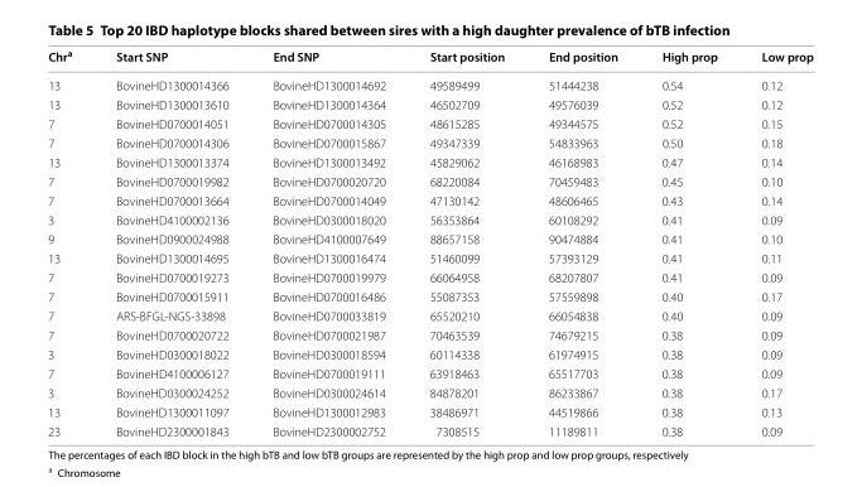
<table><thead><tr><td>Chr<sup>a</sup></td><td>Start SNP</td><td>End SNP</td><td>Start position</td><td>End position</td><td>High prop</td><td>Low prop</td></tr></thead><tbody><tr><td>13</td><td>BovineHD1300014366</td><td>BovineHD1300014692</td><td>49589499</td><td>51444238</td><td>0.54</td><td>0.12</td></tr><tr><td>13</td><td>BovineHD1300013610</td><td>BovineHD1300014364</td><td>46502709</td><td>49576039</td><td>0.52</td><td>0.12</td></tr><tr><td>7</td><td>BovineHD0700014051</td><td>BovineHD0700014305</td><td>48615285</td><td>49344575</td><td>0.52</td><td>0.15</td></tr><tr><td>7</td><td>BovineHD0700014306</td><td>BovineHD0700015867</td><td>49347339</td><td>54833963</td><td>0.50</td><td>0.18</td></tr><tr><td>13</td><td>BovineHD1300013374</td><td>BovineHD1300013492</td><td>45829062</td><td>46168983</td><td>0.47</td><td>0.14</td></tr><tr><td>7</td><td>BovineHD0700019982</td><td>BovineHD0700020720</td><td>68220084</td><td>70459483</td><td>0.45</td><td>0.10</td></tr><tr><td>7</td><td>BovineHD0700013664</td><td>BovineHD0700014049</td><td>47130142</td><td>48606465</td><td>0.43</td><td>0.14</td></tr><tr><td>3</td><td>BovineHD4100002136</td><td>BovineHD0300018020</td><td>56353864</td><td>60108292</td><td>0.41</td><td>0.09</td></tr><tr><td>9</td><td>BovineHD0900024988</td><td>BovineHD4100007649</td><td>88657158</td><td>90474884</td><td>0.41</td><td>0.10</td></tr><tr><td>13</td><td>BovineHD1300014695</td><td>BovineHD1300016474</td><td>51460099</td><td>57393129</td><td>0.41</td><td>0.11</td></tr><tr><td>7</td><td>BovineHD0700019273</td><td>BovineHD0700019979</td><td>66064958</td><td>68207807</td><td>0.41</td><td>0.09</td></tr><tr><td>7</td><td>BovineHD0700015911</td><td>BovineHD0700016486</td><td>55087353</td><td>57559898</td><td>0.40</td><td>0.17</td></tr><tr><td>7</td><td>ARS-BFGL-NGS-33898</td><td>BovineHD0700033819</td><td>65520210</td><td>66054838</td><td>0.40</td><td>0.09</td></tr><tr><td>7</td><td>BovineHD0700020722</td><td>BovineHD0700021987</td><td>70463539</td><td>74679215</td><td>0.38</td><td>0.09</td></tr><tr><td>3</td><td>BovineHD0300018022</td><td>BovineHD0300018594</td><td>60114338</td><td>61974915</td><td>0.38</td><td>0.09</td></tr><tr><td>7</td><td>BovineHD4100006127</td><td>BovineHD0700019111</td><td>63918463</td><td>65517703</td><td>0.38</td><td>0.09</td></tr><tr><td>3</td><td>BovineHD0300024252</td><td>BovineHD0300024614</td><td>84878201</td><td>86233867</td><td>0.38</td><td>0.17</td></tr><tr><td>13</td><td>BovineHD1300011097</td><td>BovineHD1300012983</td><td>38486971</td><td>44519866</td><td>0.38</td><td>0.13</td></tr><tr><td>23</td><td>BovineHD2300001843</td><td>BovineHD2300002752</td><td>7308515</td><td>11189811</td><td>0.38</td><td>0.09</td></tr></tbody></table>